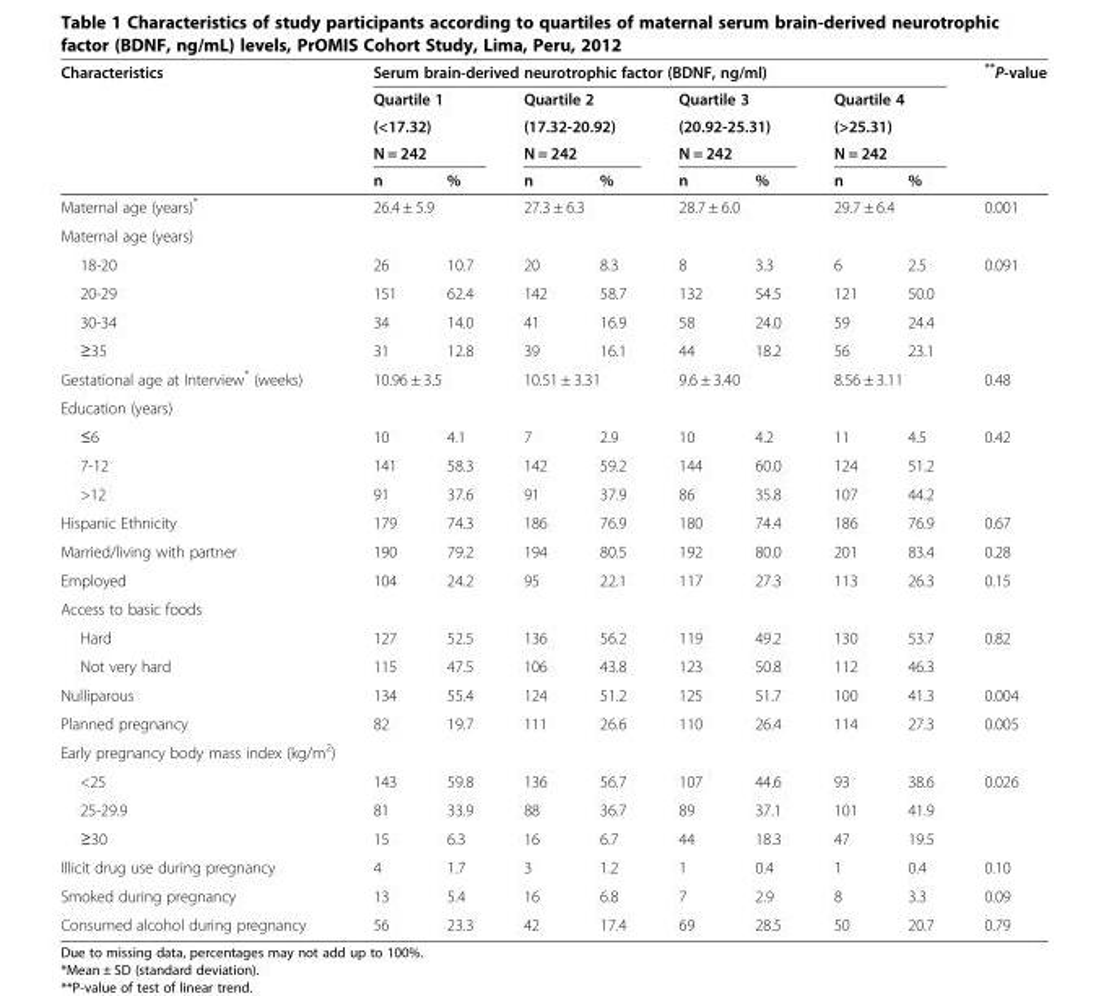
<table><thead><tr><td rowspan="5">Characteristics</td><td colspan="8">Serum brain-derived neurotrophic factor (BDNF, ng/ml)</td><td rowspan="5">**P-value</td></tr><tr><td rowspan="3" colspan="2">Quartile 1 (&lt;17.32) N = 242</td><td rowspan="3" colspan="2">Quartile 2 (17.32-20.92) N = 242</td><td rowspan="3" colspan="2">Quartile 3 (20.92-25.31) N = 242</td><td rowspan="3" colspan="2">Quartile 4 (&gt;25.31) N = 242</td></tr><tr></tr><tr></tr><tr><td>n</td><td>%</td><td>n</td><td>%</td><td>n</td><td>%</td><td>n</td><td>%</td></tr></thead><tbody><tr><td>Maternal age (years)*</td><td colspan="2">26.4 ± 5.9</td><td colspan="2">27.3 ± 6.3</td><td colspan="2">28.7 ± 6.0</td><td colspan="2">29.7 ± 6.4</td><td>0.001</td></tr><tr><td colspan="10">Maternal age (years)</td></tr><tr><td>18-20</td><td>26</td><td>10.7</td><td>20</td><td>8.3</td><td>8</td><td>3.3</td><td>6</td><td>2.5</td><td rowspan="4">0.091</td></tr><tr><td>20-29</td><td>151</td><td>62.4</td><td>142</td><td>58.7</td><td>132</td><td>54.5</td><td>121</td><td>50.0</td></tr><tr><td>30-34</td><td>34</td><td>14.0</td><td>41</td><td>16.9</td><td>58</td><td>24.0</td><td>59</td><td>24.4</td></tr><tr><td>≥35</td><td>31</td><td>12.8</td><td>39</td><td>16.1</td><td>44</td><td>18.2</td><td>56</td><td>23.1</td></tr><tr><td>Gestational age at Interview* (weeks)</td><td colspan="2">10.96 ± 3.5</td><td colspan="2">10.51 ± 3.31</td><td colspan="2">9.6 ± 3.40</td><td colspan="2">8.56 ± 3.11</td><td>0.48</td></tr><tr><td colspan="10">Education (years)</td></tr><tr><td>≤6</td><td>10</td><td>4.1</td><td>7</td><td>2.9</td><td>10</td><td>4.2</td><td>11</td><td>4.5</td><td rowspan="3">0.42</td></tr><tr><td>7-12</td><td>141</td><td>58.3</td><td>142</td><td>59.2</td><td>144</td><td>60.0</td><td>124</td><td>51.2</td></tr><tr><td>&gt;12</td><td>91</td><td>37.6</td><td>91</td><td>37.9</td><td>86</td><td>35.8</td><td>107</td><td>44.2</td></tr><tr><td>Hispanic Ethnicity</td><td>179</td><td>74.3</td><td>186</td><td>76.9</td><td>180</td><td>74.4</td><td>186</td><td>76.9</td><td>0.67</td></tr><tr><td>Married/living with partner</td><td>190</td><td>79.2</td><td>194</td><td>80.5</td><td>192</td><td>80.0</td><td>201</td><td>83.4</td><td>0.28</td></tr><tr><td>Employed</td><td>104</td><td>24.2</td><td>95</td><td>22.1</td><td>117</td><td>27.3</td><td>113</td><td>26.3</td><td>0.15</td></tr><tr><td colspan="10">Access to basic foods</td></tr><tr><td>Hard</td><td>127</td><td>52.5</td><td>136</td><td>56.2</td><td>119</td><td>49.2</td><td>130</td><td>53.7</td><td rowspan="2">0.82</td></tr><tr><td>Not very hard</td><td>115</td><td>47.5</td><td>106</td><td>43.8</td><td>123</td><td>50.8</td><td>112</td><td>46.3</td></tr><tr><td>Nulliparous</td><td>134</td><td>55.4</td><td>124</td><td>51.2</td><td>125</td><td>51.7</td><td>100</td><td>41.3</td><td>0.004</td></tr><tr><td>Planned pregnancy</td><td>82</td><td>19.7</td><td>111</td><td>26.6</td><td>110</td><td>26.4</td><td>114</td><td>27.3</td><td>0.005</td></tr><tr><td colspan="10">Early pregnancy body mass index (kg/m<sup>2</sup>)</td></tr><tr><td>&lt;25</td><td>143</td><td>59.8</td><td>136</td><td>56.7</td><td>107</td><td>44.6</td><td>93</td><td>38.6</td><td rowspan="3">0.026</td></tr><tr><td>25-29.9</td><td>81</td><td>33.9</td><td>88</td><td>36.7</td><td>89</td><td>37.1</td><td>101</td><td>41.9</td></tr><tr><td>≥30</td><td>15</td><td>6.3</td><td>16</td><td>6.7</td><td>44</td><td>18.3</td><td>47</td><td>19.5</td></tr><tr><td>Illicit drug use during pregnancy</td><td>4</td><td>1.7</td><td>3</td><td>1.2</td><td>1</td><td>0.4</td><td>1</td><td>0.4</td><td>0.10</td></tr><tr><td>Smoked during pregnancy</td><td>13</td><td>5.4</td><td>16</td><td>6.8</td><td>7</td><td>2.9</td><td>8</td><td>3.3</td><td>0.09</td></tr><tr><td>Consumed alcohol during pregnancy</td><td>56</td><td>23.3</td><td>42</td><td>17.4</td><td>69</td><td>28.5</td><td>50</td><td>20.7</td><td>0.79</td></tr></tbody></table>